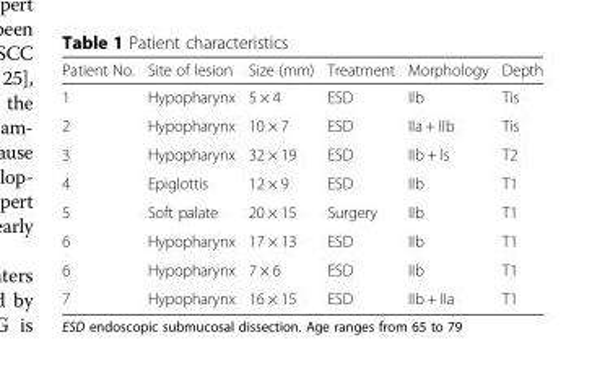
<table><thead><tr><td>Patient No.</td><td>Site of lesion</td><td>Size (mm)</td><td>Treatment</td><td>Morphology</td><td>Depth</td></tr></thead><tbody><tr><td>1</td><td>Hypopharynx</td><td>5 × 4</td><td>ESD</td><td>IIb</td><td>Tis</td></tr><tr><td>2</td><td>Hypopharynx</td><td>10 × 7</td><td>ESD</td><td>IIa + IIb</td><td>Tis</td></tr><tr><td>3</td><td>Hypopharynx</td><td>32 × 19</td><td>ESD</td><td>IIb + Is</td><td>T2</td></tr><tr><td>4</td><td>Epiglottis</td><td>12 × 9</td><td>ESD</td><td>IIb</td><td>T1</td></tr><tr><td>5</td><td>Soft palate</td><td>20 × 15</td><td>Surgery</td><td>IIb</td><td>T1</td></tr><tr><td>6</td><td>Hypopharynx</td><td>17 × 13</td><td>ESD</td><td>IIb</td><td>T1</td></tr><tr><td>6</td><td>Hypopharynx</td><td>7 × 6</td><td>ESD</td><td>IIb</td><td>T1</td></tr><tr><td>7</td><td>Hypopharynx</td><td>16 × 15</td><td>ESD</td><td>IIb + IIa</td><td>T1</td></tr></tbody></table>